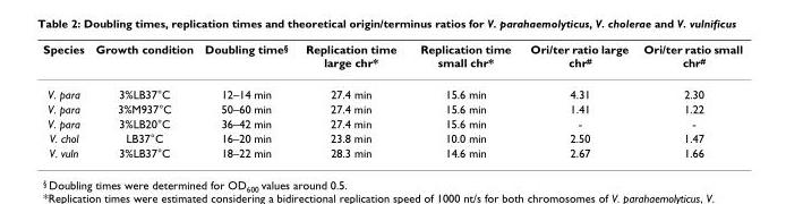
<table><thead><tr><td>Species</td><td>Growth condition</td><td>Doubling time<sup>§</sup></td><td>Replication time large chr*</td><td>Replication time small chr*</td><td>Ori/ter ratio large chr<sup>#</sup></td><td>Ori/ter ratio small chr<sup>#</sup></td></tr></thead><tbody><tr><td>V. para</td><td>3%LB37°C</td><td>12–14 min</td><td>27.4 min</td><td>15.6 min</td><td>4.31</td><td>2.30</td></tr><tr><td>V. para</td><td>3%M937°C</td><td>50–60 min</td><td>27.4 min</td><td>15.6 min</td><td>1.41</td><td>1.22</td></tr><tr><td>V. para</td><td>3%LB20°C</td><td>36–42 min</td><td>27.4 min</td><td>15.6 min</td><td>-</td><td>-</td></tr><tr><td>V. chol</td><td>LB37°C</td><td>16–20 min</td><td>23.8 min</td><td>10.0 min</td><td>2.50</td><td>1.47</td></tr><tr><td>V. vuln</td><td>3%LB37°C</td><td>18–22 min</td><td>28.3 min</td><td>14.6 min</td><td>2.67</td><td>1.66</td></tr></tbody></table>